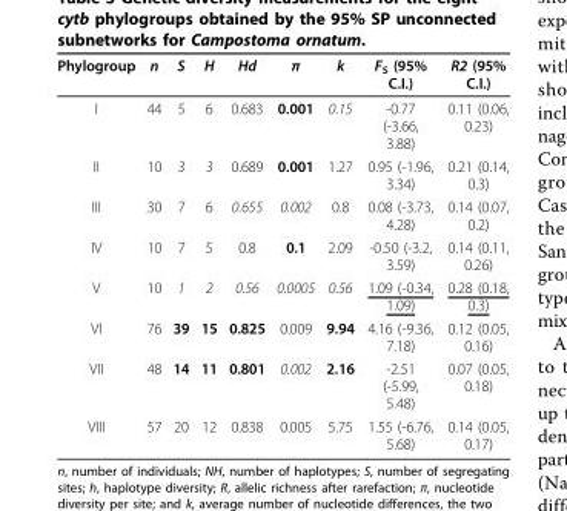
<table><thead><tr><td>Phylogroup</td><td>n</td><td>S</td><td>H</td><td>Hd</td><td>π</td><td>k</td><td>F<sub>S</sub> (95% C.I.)</td><td>R2 (95% C.I.)</td></tr></thead><tbody><tr><td>I</td><td>44</td><td>5</td><td>6</td><td>0.683</td><td>0.001</td><td>0.15</td><td>-0.77 (-3.66, 3.88)</td><td>0.11 (0.06, 0.23)</td></tr><tr><td>II</td><td>10</td><td>3</td><td>3</td><td>0.689</td><td>0.001</td><td>1.27</td><td>0.95 (-1.96, 3.34)</td><td>0.21 (0.14, 0.3)</td></tr><tr><td>III</td><td>30</td><td>7</td><td>6</td><td>0.655</td><td>0.002</td><td>0.8</td><td>0.08 (-3.73, 4.28)</td><td>0.14 (0.07, 0.2)</td></tr><tr><td>IV</td><td>10</td><td>7</td><td>5</td><td>0.8</td><td>0.1</td><td>2.09</td><td>-0.50 (-3.2, 3.59)</td><td>0.14 (0.11, 0.26)</td></tr><tr><td>V</td><td>10</td><td>1</td><td>2</td><td>0.56</td><td>0.0005</td><td>0.56</td><td>1.09 (-0.34, 1.09)</td><td>0.28 (0.18, 0.3)</td></tr><tr><td>VI</td><td>76</td><td>39</td><td>15</td><td>0.825</td><td>0.009</td><td>9.94</td><td>4.16 (-9.36, 7.18)</td><td>0.12 (0.05, 0.16)</td></tr><tr><td>VII</td><td>48</td><td>14</td><td>11</td><td>0.801</td><td>0.002</td><td>2.16</td><td>-2.51 (-5.99, 5.48)</td><td>0.07 (0.05, 0.18)</td></tr><tr><td>VIII</td><td>57</td><td>20</td><td>12</td><td>0.838</td><td>0.005</td><td>5.75</td><td>1.55 (-6.76, 5.68)</td><td>0.14 (0.05, 0.17)</td></tr></tbody></table>